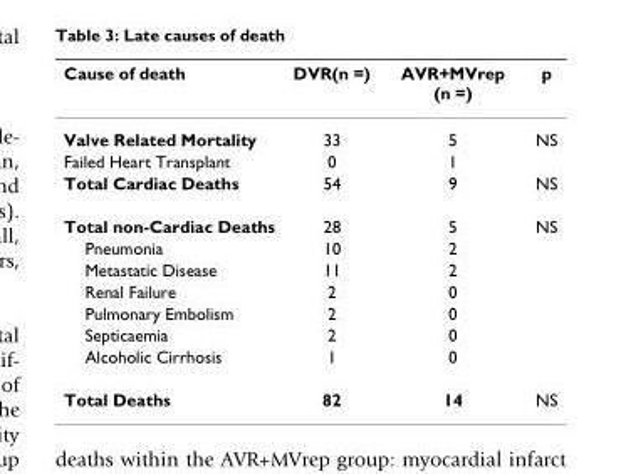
<table><thead><tr><td>Cause of death</td><td>DVR(n =)</td><td>AVR+MVrep (n =)</td><td>p</td></tr></thead><tbody><tr><td>Valve Related Mortality</td><td>33</td><td>5</td><td>NS</td></tr><tr><td>Failed Heart Transplant</td><td>0</td><td>1</td><td></td></tr><tr><td>Total Cardiac Deaths</td><td>54</td><td>9</td><td>NS</td></tr><tr><td>Total non-Cardiac Deaths</td><td>28</td><td>5</td><td>NS</td></tr><tr><td>Pneumonia</td><td>10</td><td>2</td><td></td></tr><tr><td>Metastatic Disease</td><td>11</td><td>2</td><td></td></tr><tr><td>Renal Failure</td><td>2</td><td>0</td><td></td></tr><tr><td>Pulmonary Embolism</td><td>2</td><td>0</td><td></td></tr><tr><td>Septicaemia</td><td>2</td><td>0</td><td></td></tr><tr><td>Alcoholic Cirrhosis</td><td>1</td><td>0</td><td></td></tr><tr><td>Total Deaths</td><td>82</td><td>14</td><td>NS</td></tr></tbody></table>